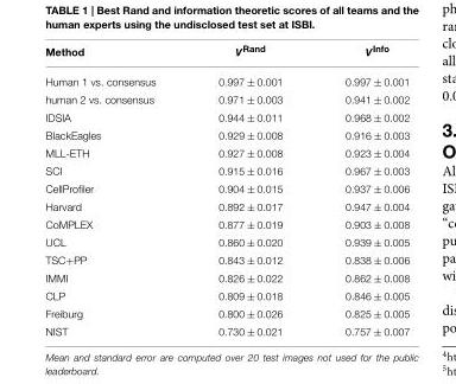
<table><thead><tr><td>Method</td><td>V<sup>Rand</sup></td><td>V<sup>Info</sup></td></tr></thead><tbody><tr><td>Human 1 vs. consensus</td><td>0.997 ± 0.001</td><td>0.997 ± 0.001</td></tr><tr><td>human 2 vs. consensus</td><td>0.971 ± 0.003</td><td>0.941 ± 0.002</td></tr><tr><td>IDSIA</td><td>0.944 ± 0.011</td><td>0.968 ± 0.002</td></tr><tr><td>BlackEagles</td><td>0.929 ± 0.008</td><td>0.916 ± 0.003</td></tr><tr><td>MLL-ETH</td><td>0.927 ± 0.008</td><td>0.923 ± 0.004</td></tr><tr><td>SCI</td><td>0.915 ± 0.016</td><td>0.967 ± 0.003</td></tr><tr><td>CellProfiler</td><td>0.904 ± 0.015</td><td>0.937 ± 0.006</td></tr><tr><td>Harvard</td><td>0.892 ± 0.017</td><td>0.947 ± 0.004</td></tr><tr><td>CoMPLEX</td><td>0.877 ± 0.019</td><td>0.903 ± 0.008</td></tr><tr><td>UCL</td><td>0.860 ± 0.020</td><td>0.939 ± 0.005</td></tr><tr><td>TSC+PP</td><td>0.843 ± 0.012</td><td>0.838 ± 0.006</td></tr><tr><td>IMMI</td><td>0.826 ± 0.022</td><td>0.862 ± 0.008</td></tr><tr><td>CLP</td><td>0.809 ± 0.018</td><td>0.846 ± 0.005</td></tr><tr><td>Freiburg</td><td>0.800 ± 0.026</td><td>0.825 ± 0.005</td></tr><tr><td>NIST</td><td>0.730 ± 0.021</td><td>0.757 ± 0.007</td></tr></tbody></table>